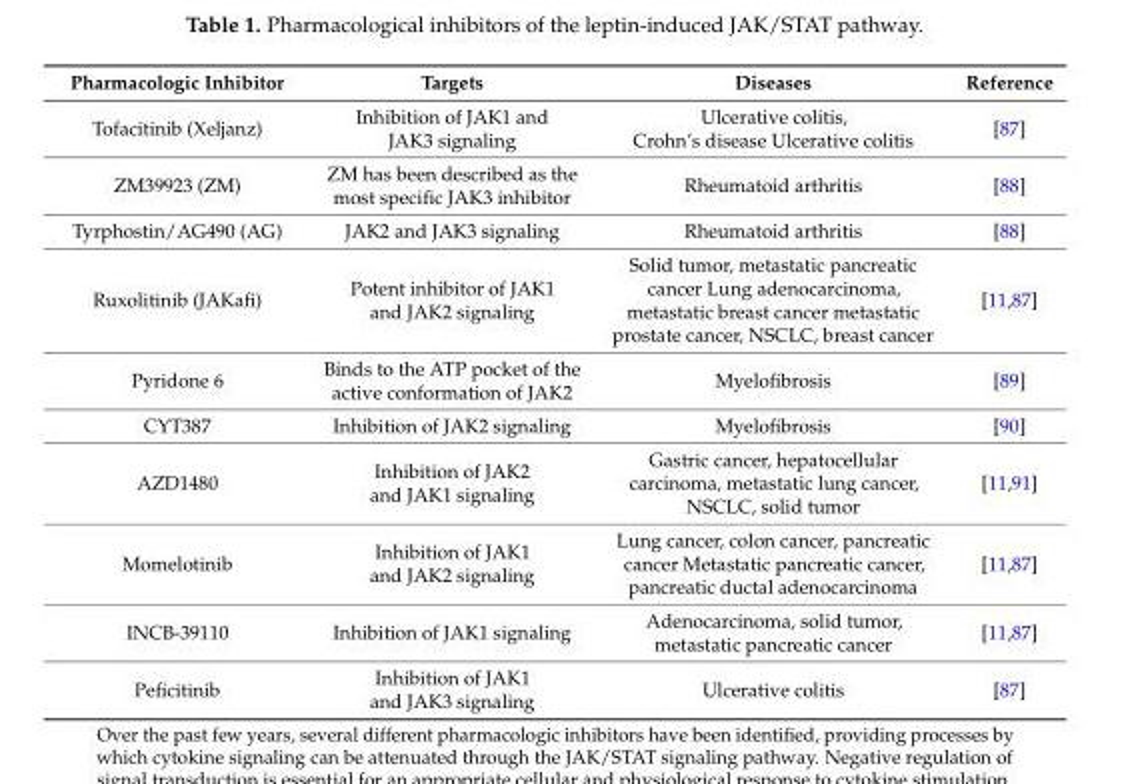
<table><thead><tr><td>Pharmacologic Inhibitor</td><td>Targets</td><td>Diseases</td><td>Reference</td></tr></thead><tbody><tr><td>Tofacitinib (Xeljanz)</td><td>Inhibition of JAK1 and JAK3 signaling</td><td>Ulcerative colitis, Crohn’s disease Ulcerative colitis</td><td>[87]</td></tr><tr><td>ZM39923 (ZM)</td><td>ZM has been described as the most specific JAK3 inhibitor</td><td>Rheumatoid arthritis</td><td>[88]</td></tr><tr><td>Tyrphostin/AG490 (AG)</td><td>JAK2 and JAK3 signaling</td><td>Rheumatoid arthritis</td><td>[88]</td></tr><tr><td>Ruxolitinib (JAKafi)</td><td>Potent inhibitor of JAK1 and JAK2 signaling</td><td>Solid tumor, metastatic pancreatic cancer Lung adenocarcinoma, metastatic breast cancer metastatic prostate cancer, NSCLC, breast cancer</td><td>[11,87]</td></tr><tr><td>Pyridone 6</td><td>Binds to the ATP pocket of the active conformation of JAK2</td><td>Myelofibrosis</td><td>[89]</td></tr><tr><td>CYT387</td><td>Inhibition of JAK2 signaling</td><td>Myelofibrosis</td><td>[90]</td></tr><tr><td>AZD1480</td><td>Inhibition of JAK2 and JAK1 signaling</td><td>Gastric cancer, hepatocellular carcinoma, metastatic lung cancer, NSCLC, solid tumor</td><td>[11,91]</td></tr><tr><td>Momelotinib</td><td>Inhibition of JAK1 and JAK2 signaling</td><td>Lung cancer, colon cancer, pancreatic cancer Metastatic pancreatic cancer, pancreatic ductal adenocarcinoma</td><td>[11,87]</td></tr><tr><td>INCB-39110</td><td>Inhibition of JAK1 signaling</td><td>Adenocarcinoma, solid tumor, metastatic pancreatic cancer</td><td>[11,87]</td></tr><tr><td>Peficitinib</td><td>Inhibition of JAK1 and JAK3 signaling</td><td>Ulcerative colitis</td><td>[87]</td></tr></tbody></table>